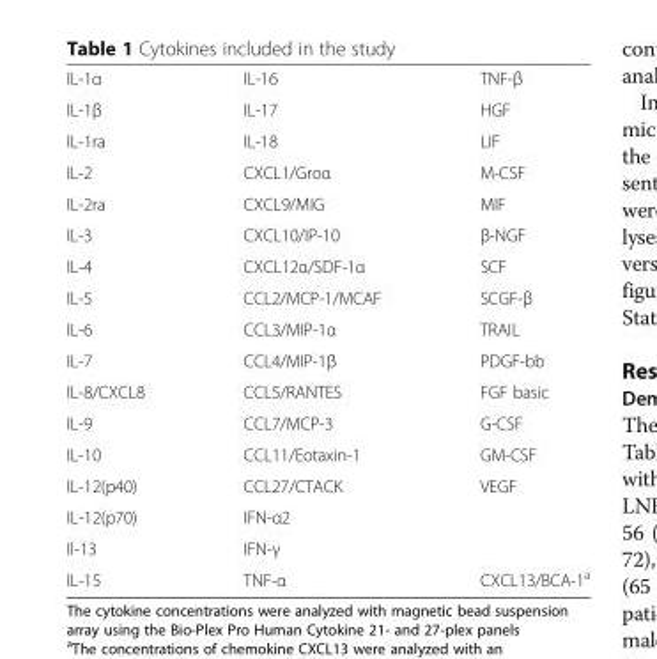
<table><tbody><tr><td>IL-1α</td><td>IL-16</td><td>TNF-β</td></tr><tr><td>IL-1β</td><td>IL-17</td><td>HGF</td></tr><tr><td>IL-1ra</td><td>IL-18</td><td>LIF</td></tr><tr><td>IL-2</td><td>CXCL1/Groα</td><td>M-CSF</td></tr><tr><td>IL-2ra</td><td>CXCL9/MIG</td><td>MIF</td></tr><tr><td>IL-3</td><td>CXCL10/IP-10</td><td>β-NGF</td></tr><tr><td>IL-4</td><td>CXCL12α/SDF-1α</td><td>SCF</td></tr><tr><td>IL-5</td><td>CCL2/MCP-1/MCAF</td><td>SCGF-β</td></tr><tr><td>IL-6</td><td>CCL3/MIP-1α</td><td>TRAIL</td></tr><tr><td>IL-7</td><td>CCL4/MIP-1β</td><td>PDGF-bb</td></tr><tr><td>IL-8/CXCL8</td><td>CCL5/RANTES</td><td>FGF basic</td></tr><tr><td>IL-9</td><td>CCL7/MCP-3</td><td>G-CSF</td></tr><tr><td>IL-10</td><td>CCL11/Eotaxin-1</td><td>GM-CSF</td></tr><tr><td>IL-12(p40)</td><td>CCL27/CTACK</td><td>VEGF</td></tr><tr><td>IL-12(p70)</td><td>IFN-α2</td><td></td></tr><tr><td>Il-13</td><td>IFN-γ</td><td></td></tr><tr><td>IL-15</td><td>TNF-α</td><td>CXCL13/BCA-1<sup>a</sup></td></tr></tbody></table>